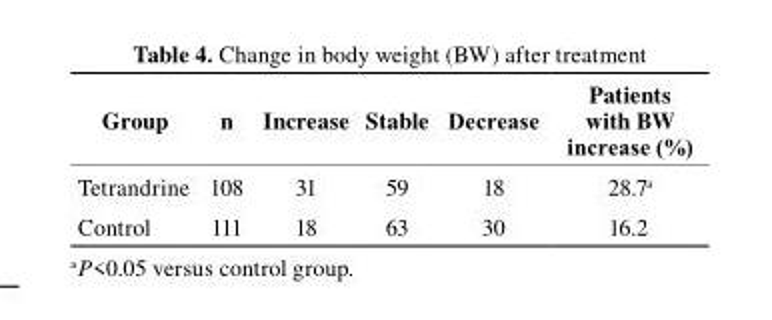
<table><thead><tr><td>Group</td><td>n</td><td>Increase</td><td>stable</td><td>Decrease</td><td>Patients with bW increase (%)</td></tr></thead><tbody><tr><td>Tetrandrine</td><td>108</td><td>31</td><td>59</td><td>18</td><td>28.7<sup>a</sup></td></tr><tr><td>Control</td><td>111</td><td>18</td><td>63</td><td>30</td><td>16.2</td></tr></tbody></table>